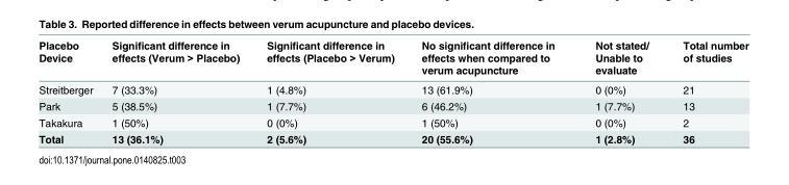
<table><thead><tr><td>Placebo Device</td><td>Significant difference in effects (Verum &gt; Placebo)</td><td>Significant difference in effects (Placebo &gt; Verum)</td><td>No significant difference in effects when compared to verum acupuncture</td><td>Not stated/ Unable to evaluate</td><td>Total number of studies</td></tr></thead><tbody><tr><td>Streitberger</td><td>7 (33.3%)</td><td>1 (4.8%)</td><td>13 (61.9%)</td><td>0 (0%)</td><td>21</td></tr><tr><td>Park</td><td>5 (38.5%)</td><td>1 (7.7%)</td><td>6 (46.2%)</td><td>1 (7.7%)</td><td>13</td></tr><tr><td>Takakura</td><td>1 (50%)</td><td>0 (0%)</td><td>1 (50%)</td><td>0 (0%)</td><td>2</td></tr><tr><td>Total</td><td>13 (36.1%)</td><td>2 (5.6%)</td><td>20 (55.6%)</td><td>1 (2.8%)</td><td>36</td></tr></tbody></table>